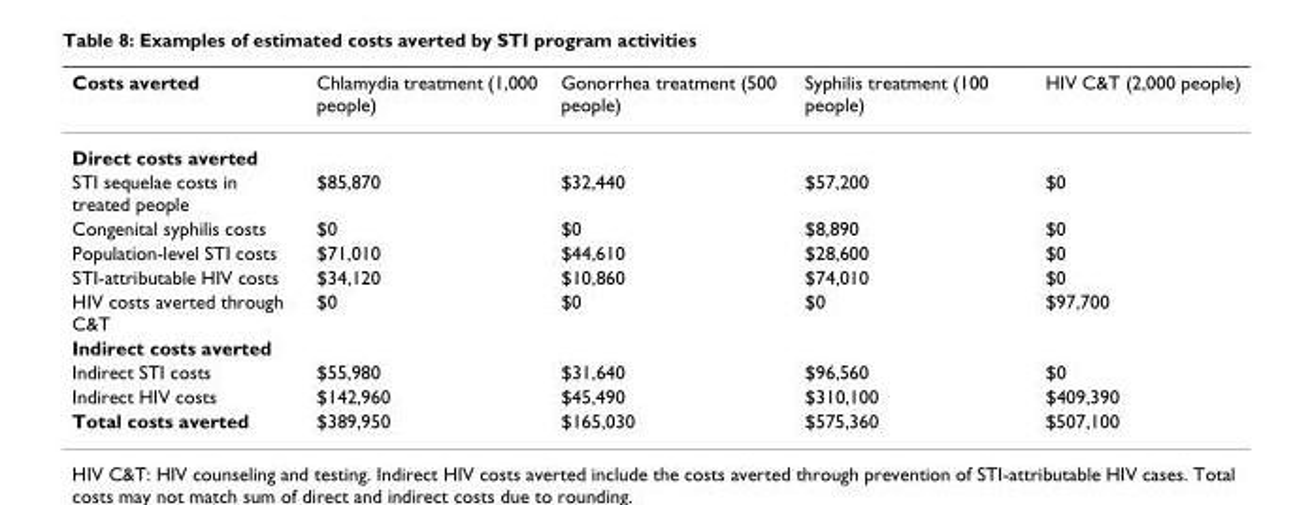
<table><thead><tr><td>Costs averted</td><td>Chlamydia treatment (1,000 people)</td><td>Gonorrhea treatment (500 people)</td><td>Syphilis treatment (100 people)</td><td>HIV C&amp;T (2,000 people)</td></tr></thead><tbody><tr><td colspan="5">Direct costs averted</td></tr><tr><td>STI sequelae costs in treated people</td><td>$85,870</td><td>$32,440</td><td>$57,200</td><td>$0</td></tr><tr><td>Congenital syphilis costs</td><td>$0</td><td>$0</td><td>$8,890</td><td>$0</td></tr><tr><td>Population-level STI costs</td><td>$71,010</td><td>$44,610</td><td>$28,600</td><td>$0</td></tr><tr><td>STI-attributable HIV costs</td><td>$34,120</td><td>$10,860</td><td>$74,010</td><td>$0</td></tr><tr><td>HIV costs averted through C&amp;T</td><td>$0</td><td>$0</td><td>$0</td><td>$97,700</td></tr><tr><td colspan="5">Indirect costs averted</td></tr><tr><td>Indirect STI costs</td><td>$55,980</td><td>$31,640</td><td>$96,560</td><td>$0</td></tr><tr><td>Indirect HIV costs</td><td>$142,960</td><td>$45,490</td><td>$310,100</td><td>$409,390</td></tr><tr><td>Total costs averted</td><td>$389,950</td><td>$165,030</td><td>$575,360</td><td>$507,100</td></tr></tbody></table>